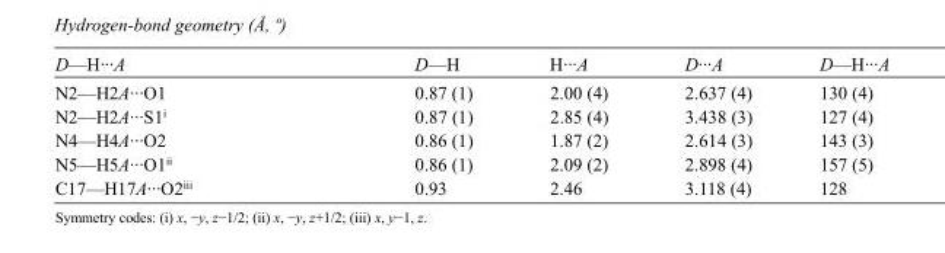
<table><tbody><tr><td>D—H···A</td><td>D—H</td><td>H···A</td><td>D···A</td><td>D—H···A</td></tr><tr><td>N2—H2A···O1</td><td>0.87 (1)</td><td>2.00 (4)</td><td>2.637 (4)</td><td>130 (4)</td></tr><tr><td>N2—H2A···S1<sup>i</sup></td><td>0.87 (1)</td><td>2.85 (4)</td><td>3.438 (3)</td><td>127 (4)</td></tr><tr><td>N4—H4A···O2</td><td>0.86 (1)</td><td>1.87 (2)</td><td>2.614 (3)</td><td>143 (3)</td></tr><tr><td>N5—H5A···O1<sup>ii</sup></td><td>0.86 (1)</td><td>2.09 (2)</td><td>2.898 (4)</td><td>157 (5)</td></tr><tr><td>C17—H17A···O2<sup>iii</sup></td><td>0.93</td><td>2.46</td><td>3.118 (4)</td><td>128</td></tr></tbody></table>